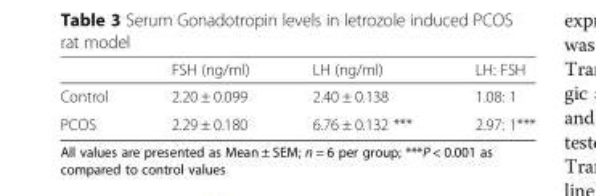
<table><thead><tr><td></td><td>FSH (ng/ml)</td><td>LH (ng/ml)</td><td>LH: FSH</td></tr></thead><tbody><tr><td>Control</td><td>2.20 ± 0.099</td><td>2.40 ± 0.138</td><td>1.08: 1</td></tr><tr><td>PCOS</td><td>2.29 ± 0.180</td><td>6.76 ± 0.132 ***</td><td>2.97: 1***</td></tr></tbody></table>